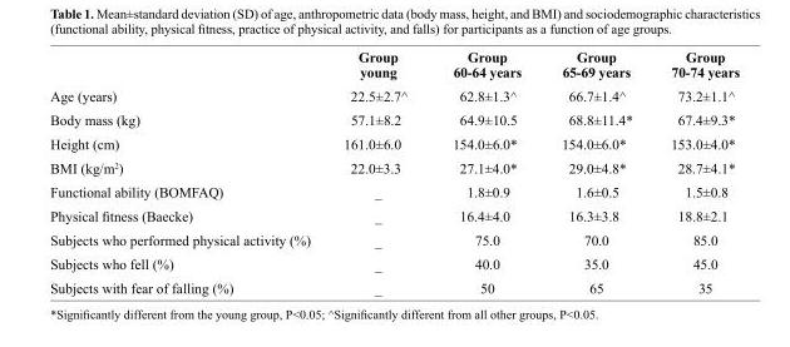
<table><thead><tr><td></td><td>Group young</td><td>Group 60-64 years</td><td>Group 65-69 years</td><td>Group 70-74 years</td></tr></thead><tbody><tr><td>Age (years)</td><td>22.5±2.7<sup>^</sup></td><td>62.8±1.3<sup>^</sup></td><td>66.7±1.4<sup>^</sup></td><td>73.2±1.1<sup>^</sup></td></tr><tr><td>Body mass (kg)</td><td>57.1±8.2</td><td>64.9±10.5</td><td>68.8±11.4*</td><td>67.4±9.3*</td></tr><tr><td>Height (cm)</td><td>161.0±6.0</td><td>154.0±6.0*</td><td>154.0±6.0*</td><td>153.0±4.0*</td></tr><tr><td>BMI (kg/m<sup>2</sup>)</td><td>22.0±3.3</td><td>27.1±4.0*</td><td>29.0±4.8*</td><td>28.7±4.1*</td></tr><tr><td>Functional ability (BOMFAQ)</td><td>_</td><td>1.8±0.9</td><td>1.6±0.5</td><td>1.5±0.8</td></tr><tr><td>Physical fitness (Baecke)</td><td>_</td><td>16.4±4.0</td><td>16.3±3.8</td><td>18.8±2.1</td></tr><tr><td>Subjects who performed physical activity (%)</td><td>_</td><td>75.0</td><td>70.0</td><td>85.0</td></tr><tr><td>Subjects who fell (%)</td><td>_</td><td>40.0</td><td>35.0</td><td>45.0</td></tr><tr><td>Subjects with fear of falling (%)</td><td>_</td><td>50</td><td>65</td><td>35</td></tr></tbody></table>